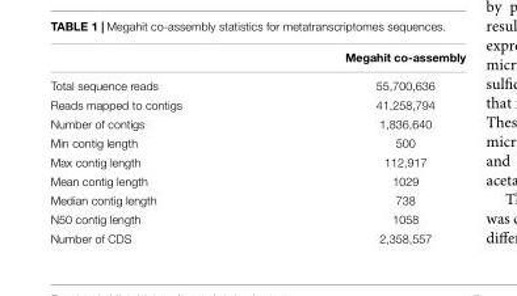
<table><thead><tr><td></td><td>Megahit co-assembly</td></tr></thead><tbody><tr><td>Total sequence reads</td><td>55,700,636</td></tr><tr><td>Reads mapped to contigs</td><td>41,258,794</td></tr><tr><td>Number of contigs</td><td>1,836,640</td></tr><tr><td>Min contig length</td><td>500</td></tr><tr><td>Max contig length</td><td>112,917</td></tr><tr><td>Mean contig length</td><td>1029</td></tr><tr><td>Median contig length</td><td>738</td></tr><tr><td>N50 contig length</td><td>1058</td></tr><tr><td>Number of CDS</td><td>2,358,557</td></tr></tbody></table>